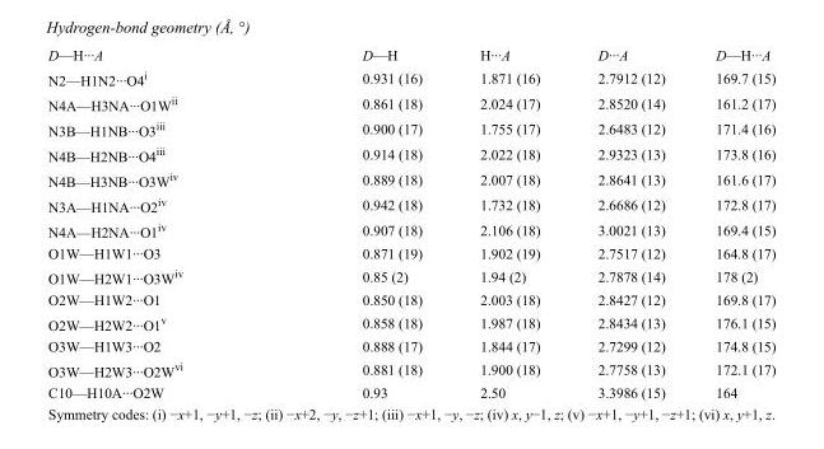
<table><tbody><tr><td>D—H···A</td><td>D—H</td><td>H···A</td><td>D···A</td><td>D—H···A</td></tr><tr><td>N2—H1N2···O4<sup>i</sup></td><td>0.931 (16)</td><td>1.871 (16)</td><td>2.7912 (12)</td><td>169.7 (15)</td></tr><tr><td>N4A—H3NA···O1W<sup>ii</sup></td><td>0.861 (18)</td><td>2.024 (17)</td><td>2.8520 (14)</td><td>161.2 (17)</td></tr><tr><td>N3B—H1NB···O3<sup>iii</sup></td><td>0.900 (17)</td><td>1.755 (17)</td><td>2.6483 (12)</td><td>171.4 (16)</td></tr><tr><td>N4B—H2NB···O4<sup>iii</sup></td><td>0.914 (18)</td><td>2.022 (18)</td><td>2.9323 (13)</td><td>173.8 (16)</td></tr><tr><td>N4B—H3NB···O3W<sup>iv</sup></td><td>0.889 (18)</td><td>2.007 (18)</td><td>2.8641 (13)</td><td>161.6 (17)</td></tr><tr><td>N3A—H1NA···O2<sup>iv</sup></td><td>0.942 (18)</td><td>1.732 (18)</td><td>2.6686 (12)</td><td>172.8 (17)</td></tr><tr><td>N4A—H2NA···O1<sup>iv</sup></td><td>0.907 (18)</td><td>2.106 (18)</td><td>3.0021 (13)</td><td>169.4 (15)</td></tr><tr><td>O1W—H1W1···O3</td><td>0.871 (19)</td><td>1.902 (19)</td><td>2.7517 (12)</td><td>164.8 (17)</td></tr><tr><td>O1W—H2W1···O3W<sup>iv</sup></td><td>0.85 (2)</td><td>1.94 (2)</td><td>2.7878 (14)</td><td>178 (2)</td></tr><tr><td>O2W—H1W2···O1</td><td>0.850 (18)</td><td>2.003 (18)</td><td>2.8427 (12)</td><td>169.8 (17)</td></tr><tr><td>O2W—H2W2···O1<sup>v</sup></td><td>0.858 (18)</td><td>1.987 (18)</td><td>2.8434 (13)</td><td>176.1 (15)</td></tr><tr><td>O3W—H1W3···O2</td><td>0.888 (17)</td><td>1.844 (17)</td><td>2.7299 (12)</td><td>174.8 (15)</td></tr><tr><td>O3W—H2W3···O2W<sup>vi</sup></td><td>0.881 (18)</td><td>1.900 (18)</td><td>2.7758 (13)</td><td>172.1 (17)</td></tr><tr><td>C10—H10A···O2W</td><td>0.93</td><td>2.50</td><td>3.3986 (15)</td><td>164</td></tr></tbody></table>